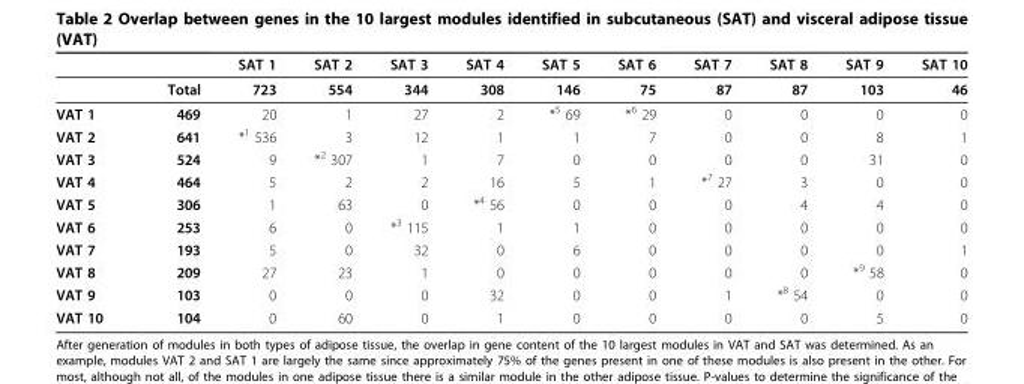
<table><thead><tr><td></td><td></td><td>SAT 1</td><td>SAT 2</td><td>SAT 3</td><td>SAT 4</td><td>SAT 5</td><td>SAT 6</td><td>SAT 7</td><td>SAT 8</td><td>SAT 9</td><td>SAT 10</td></tr></thead><tbody><tr><td></td><td>Total</td><td>723</td><td>554</td><td>344</td><td>308</td><td>146</td><td>75</td><td>87</td><td>87</td><td>103</td><td>46</td></tr><tr><td>VAT 1</td><td>469</td><td>20</td><td>1</td><td>27</td><td>2</td><td>*<sup>5</sup> 69</td><td>*<sup>6</sup> 29</td><td>0</td><td>0</td><td>0</td><td>0</td></tr><tr><td>VAT 2</td><td>641</td><td>*<sup>1</sup> 536</td><td>3</td><td>12</td><td>1</td><td>1</td><td>7</td><td>0</td><td>0</td><td>8</td><td>1</td></tr><tr><td>VAT 3</td><td>524</td><td>9</td><td>*<sup>2</sup> 307</td><td>1</td><td>7</td><td>0</td><td>0</td><td>0</td><td>0</td><td>31</td><td>0</td></tr><tr><td>VAT 4</td><td>464</td><td>5</td><td>2</td><td>2</td><td>16</td><td>5</td><td>1</td><td>*<sup>7</sup> 27</td><td>3</td><td>0</td><td>0</td></tr><tr><td>VAT 5</td><td>306</td><td>1</td><td>63</td><td>0</td><td>*<sup>4</sup> 56</td><td>0</td><td>0</td><td>0</td><td>4</td><td>4</td><td>0</td></tr><tr><td>VAT 6</td><td>253</td><td>6</td><td>0</td><td>*<sup>3</sup> 115</td><td>1</td><td>1</td><td>0</td><td>0</td><td>0</td><td>0</td><td>0</td></tr><tr><td>VAT 7</td><td>193</td><td>5</td><td>0</td><td>32</td><td>0</td><td>6</td><td>0</td><td>0</td><td>0</td><td>0</td><td>1</td></tr><tr><td>VAT 8</td><td>209</td><td>27</td><td>23</td><td>1</td><td>0</td><td>0</td><td>0</td><td>0</td><td>0</td><td>*<sup>9</sup> 58</td><td>0</td></tr><tr><td>VAT 9</td><td>103</td><td>0</td><td>0</td><td>0</td><td>32</td><td>0</td><td>0</td><td>1</td><td>*<sup>8</sup> 54</td><td>0</td><td>0</td></tr><tr><td>VAT 10</td><td>104</td><td>0</td><td>60</td><td>0</td><td>1</td><td>0</td><td>0</td><td>0</td><td>0</td><td>5</td><td>0</td></tr></tbody></table>